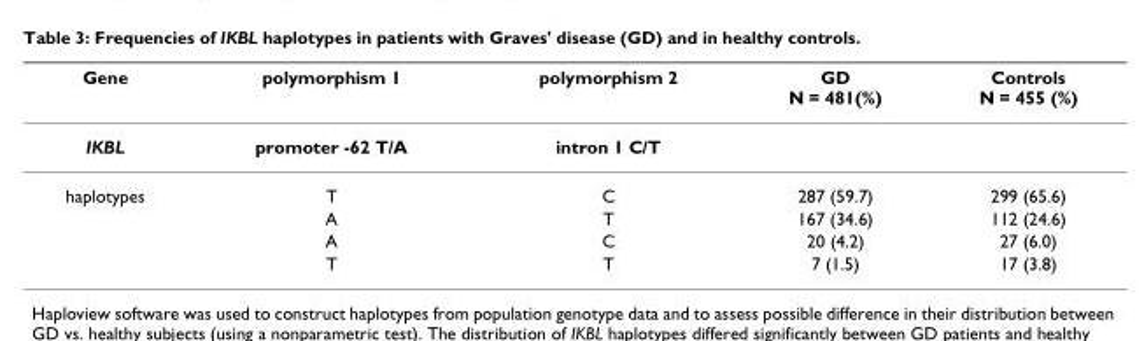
<table><thead><tr><td>Gene</td><td>polymorphism 1</td><td>polymorphism 2</td><td>GD N = 481(%)</td><td>Controls N = 455 (%)</td></tr></thead><tbody><tr><td>IKBL</td><td>promoter -62 T/A</td><td>intron 1 C/T</td><td></td><td></td></tr><tr><td rowspan="4">haplotypes</td><td>T</td><td>C</td><td>287 (59.7)</td><td>299 (65.6)</td></tr><tr><td>A</td><td>T</td><td>167 (34.6)</td><td>112 (24.6)</td></tr><tr><td>A</td><td>C</td><td>20 (4.2)</td><td>27 (6.0)</td></tr><tr><td>T</td><td>T</td><td>7 (1.5)</td><td>17 (3.8)</td></tr></tbody></table>